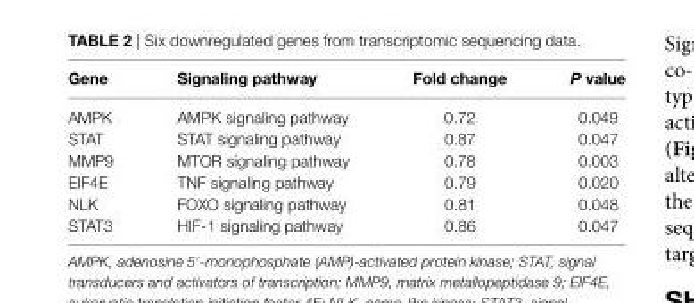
<table><thead><tr><td>gene</td><td>signaling pathway</td><td>Fold change</td><td>P value</td></tr></thead><tbody><tr><td>AMPK</td><td>AMPK signaling pathway</td><td>0.72</td><td>0.049</td></tr><tr><td>STAT</td><td>STAT signaling pathway</td><td>0.87</td><td>0.047</td></tr><tr><td>MMP9</td><td>MTOR signaling pathway</td><td>0.78</td><td>0.003</td></tr><tr><td>EIF4E</td><td>TNF signaling pathway</td><td>0.79</td><td>0.020</td></tr><tr><td>NLK</td><td>FOXO signaling pathway</td><td>0.81</td><td>0.048</td></tr><tr><td>STAT3</td><td>HIF-1 signaling pathway</td><td>0.86</td><td>0.047</td></tr></tbody></table>